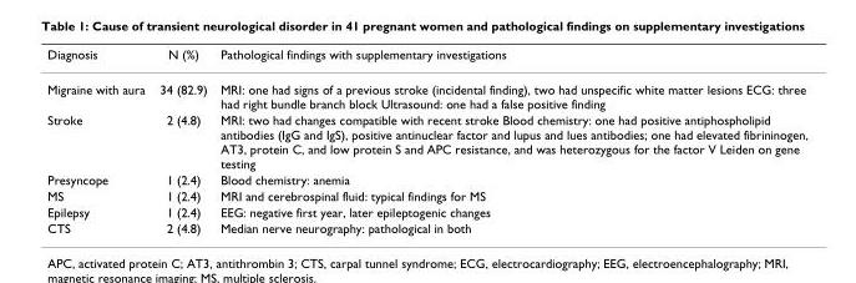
<table><thead><tr><td>Diagnosis</td><td>N (%)</td><td>Pathological findings with supplementary investigations</td></tr></thead><tbody><tr><td>Migraine with aura</td><td>34 (82.9)</td><td>MRI: one had signs of a previous stroke (incidental finding), two had unspecific white matter lesions ECG: three had right bundle branch block Ultrasound: one had a false positive finding</td></tr><tr><td>Stroke</td><td>2 (4.8)</td><td>MRI: two had changes compatible with recent stroke Blood chemistry: one had positive antiphospholipid antibodies (IgG and IgS), positive antinuclear factor and lupus and lues antibodies; one had elevated fibrininogen, AT3, protein C, and low protein S and APC resistance, and was heterozygous for the factor V Leiden on gene testing</td></tr><tr><td>Presyncope</td><td>1 (2.4)</td><td>Blood chemistry: anemia</td></tr><tr><td>MS</td><td>1 (2.4)</td><td>MRI and cerebrospinal fluid: typical findings for MS</td></tr><tr><td>Epilepsy</td><td>1 (2.4)</td><td>EEG: negative first year, later epileptogenic changes</td></tr><tr><td>CTS</td><td>2 (4.8)</td><td>Median nerve neurography: pathological in both</td></tr></tbody></table>